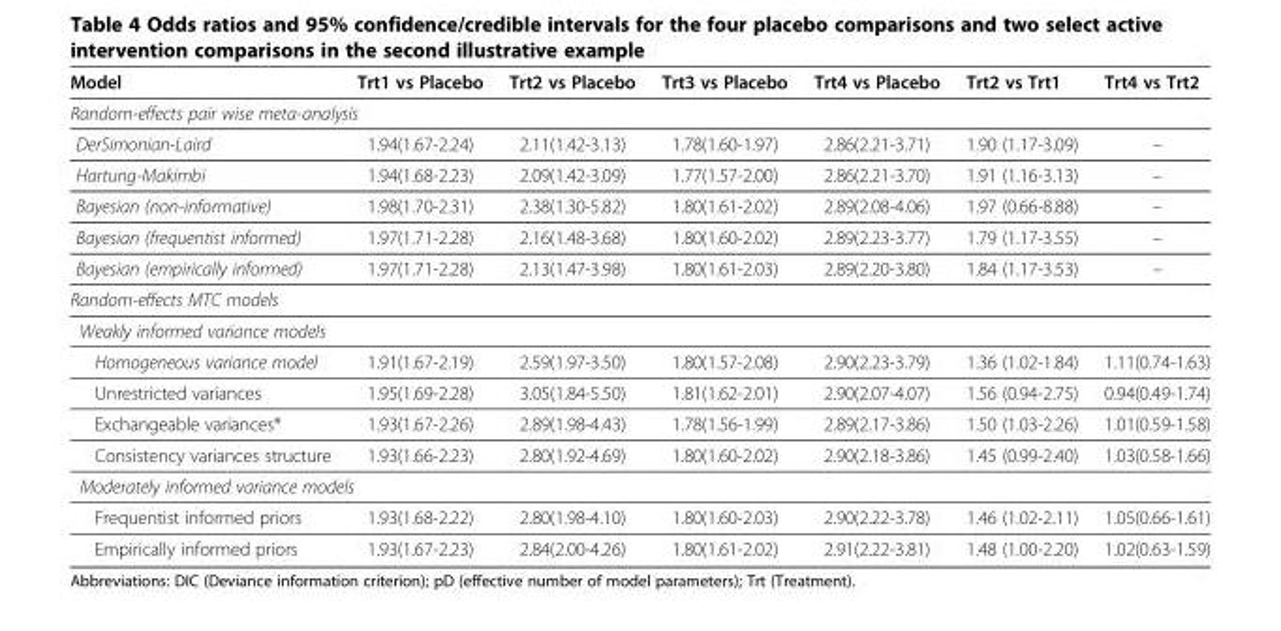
<table><thead><tr><td>Model</td><td>Trt1 vs Placebo</td><td>Trt2 vs Placebo</td><td>Trt3 vs Placebo</td><td>Trt4 vs Placebo</td><td>Trt2 vs Trt1</td><td>Trt4 vs Trt2</td></tr></thead><tbody><tr><td colspan="7">Random-effects pair wise meta-analysis</td></tr><tr><td>DerSimonian-Laird</td><td>1.94(1.67-2.24)</td><td>2.11(1.42-3.13)</td><td>1.78(1.60-1.97)</td><td>2.86(2.21-3.71)</td><td>1.90 (1.17-3.09)</td><td>–</td></tr><tr><td>Hartung-Makimbi</td><td>1.94(1.68-2.23)</td><td>2.09(1.42-3.09)</td><td>1.77(1.57-2.00)</td><td>2.86(2.21-3.70)</td><td>1.91 (1.16-3.13)</td><td>–</td></tr><tr><td>Bayesian (non-informative)</td><td>1.98(1.70-2.31)</td><td>2.38(1.30-5.82)</td><td>1.80(1.61-2.02)</td><td>2.89(2.08-4.06)</td><td>1.97 (0.66-8.88)</td><td>–</td></tr><tr><td>Bayesian (frequentist informed)</td><td>1.97(1.71-2.28)</td><td>2.16(1.48-3.68)</td><td>1.80(1.60-2.02)</td><td>2.89(2.23-3.77)</td><td>1.79 (1.17-3.55)</td><td>–</td></tr><tr><td>Bayesian (empirically informed)</td><td>1.97(1.71-2.28)</td><td>2.13(1.47-3.98)</td><td>1.80(1.61-2.03)</td><td>2.89(2.20-3.80)</td><td>1.84 (1.17-3.53)</td><td>–</td></tr><tr><td colspan="7">Random-effects MTC models</td></tr><tr><td colspan="7">Weakly informed variance models</td></tr><tr><td>Homogeneous variance model</td><td>1.91(1.67-2.19)</td><td>2.59(1.97-3.50)</td><td>1.80(1.57-2.08)</td><td>2.90(2.23-3.79)</td><td>1.36 (1.02-1.84)</td><td>1.11(0.74-1.63)</td></tr><tr><td>Unrestricted variances</td><td>1.95(1.69-2.28)</td><td>3.05(1.84-5.50)</td><td>1.81(1.62-2.01)</td><td>2.90(2.07-4.07)</td><td>1.56 (0.94-2.75)</td><td>0.94(0.49-1.74)</td></tr><tr><td>Exchangeable variances*</td><td>1.93(1.67-2.26)</td><td>2.89(1.98-4.43)</td><td>1.78(1.56-1.99)</td><td>2.89(2.17-3.86)</td><td>1.50 (1.03-2.26)</td><td>1.01(0.59-1.58)</td></tr><tr><td>Consistency variances structure</td><td>1.93(1.66-2.23)</td><td>2.80(1.92-4.69)</td><td>1.80(1.60-2.02)</td><td>2.90(2.18-3.86)</td><td>1.45 (0.99-2.40)</td><td>1.03(0.58-1.66)</td></tr><tr><td colspan="7">Moderately informed variance models</td></tr><tr><td>Frequentist informed priors</td><td>1.93(1.68-2.22)</td><td>2.80(1.98-4.10)</td><td>1.80(1.60-2.03)</td><td>2.90(2.22-3.78)</td><td>1.46 (1.02-2.11)</td><td>1.05(0.66-1.61)</td></tr><tr><td>Empirically informed priors</td><td>1.93(1.67-2.23)</td><td>2.84(2.00-4.26)</td><td>1.80(1.61-2.02)</td><td>2.91(2.22-3.81)</td><td>1.48 (1.00-2.20)</td><td>1.02(0.63-1.59)</td></tr></tbody></table>